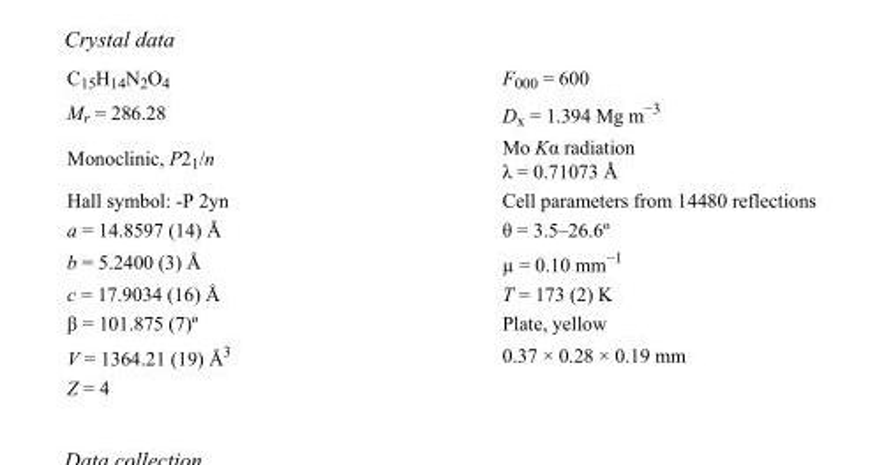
<table><tbody><tr><td>C<sub>15</sub>H<sub>14</sub>N<sub>2</sub>O<sub>4</sub></td><td>F000 = 600</td></tr><tr><td>M<sub>r</sub> = 286.28</td><td>D<sub>x</sub> = 1.394 Mg m<sup>−3</sup></td></tr><tr><td>Monoclinic, P2<sub>1</sub>/n</td><td>Mo Kα radiation λ = 0.71073 Å</td></tr><tr><td>Hall symbol: -P 2yn</td><td>Cell parameters from 14480 reflections</td></tr><tr><td>a = 14.8597 (14) Å</td><td>θ = 3.5–26.6º</td></tr><tr><td>b = 5.2400 (3) Å</td><td>µ = 0.10 mm<sup>−1</sup></td></tr><tr><td>c = 17.9034 (16) Å</td><td>T = 173 (2) K</td></tr><tr><td>β = 101.875 (7)º</td><td>Plate, yellow</td></tr><tr><td>V = 1364.21 (19) Å<sup>3</sup></td><td>0.37 × 0.28 × 0.19 mm</td></tr><tr><td>Z = 4</td><td></td></tr></tbody></table>